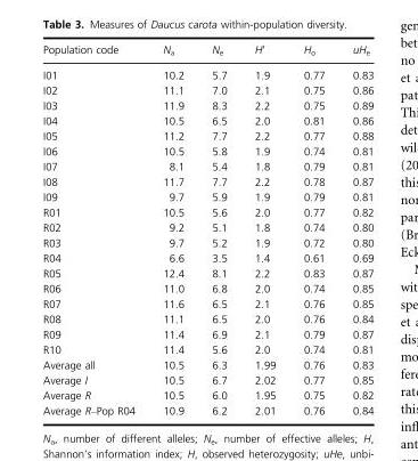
<table><thead><tr><td>Population code</td><td>N<sub>a</sub></td><td>N<sub>e</sub></td><td>H′</td><td>H<sub>o</sub></td><td>uH<sub>e</sub></td></tr></thead><tbody><tr><td>I01</td><td>10.2</td><td>5.7</td><td>1.9</td><td>0.77</td><td>0.83</td></tr><tr><td>I02</td><td>11.1</td><td>7.0</td><td>2.1</td><td>0.75</td><td>0.86</td></tr><tr><td>I03</td><td>11.9</td><td>8.3</td><td>2.2</td><td>0.75</td><td>0.89</td></tr><tr><td>I04</td><td>10.5</td><td>6.5</td><td>2.0</td><td>0.81</td><td>0.86</td></tr><tr><td>I05</td><td>11.2</td><td>7.7</td><td>2.2</td><td>0.77</td><td>0.88</td></tr><tr><td>I06</td><td>10.5</td><td>5.8</td><td>1.9</td><td>0.74</td><td>0.81</td></tr><tr><td>I07</td><td>8.1</td><td>5.4</td><td>1.8</td><td>0.79</td><td>0.81</td></tr><tr><td>I08</td><td>11.7</td><td>7.7</td><td>2.2</td><td>0.78</td><td>0.87</td></tr><tr><td>I09</td><td>9.7</td><td>5.9</td><td>1.9</td><td>0.79</td><td>0.81</td></tr><tr><td>R01</td><td>10.5</td><td>5.6</td><td>2.0</td><td>0.77</td><td>0.82</td></tr><tr><td>R02</td><td>9.2</td><td>5.1</td><td>1.8</td><td>0.74</td><td>0.80</td></tr><tr><td>R03</td><td>9.7</td><td>5.2</td><td>1.9</td><td>0.72</td><td>0.80</td></tr><tr><td>R04</td><td>6.6</td><td>3.5</td><td>1.4</td><td>0.61</td><td>0.69</td></tr><tr><td>R05</td><td>12.4</td><td>8.1</td><td>2.2</td><td>0.83</td><td>0.87</td></tr><tr><td>R06</td><td>11.0</td><td>6.8</td><td>2.0</td><td>0.74</td><td>0.85</td></tr><tr><td>R07</td><td>11.6</td><td>6.5</td><td>2.1</td><td>0.76</td><td>0.85</td></tr><tr><td>R08</td><td>11.1</td><td>6.5</td><td>2.0</td><td>0.76</td><td>0.84</td></tr><tr><td>R09</td><td>11.4</td><td>6.9</td><td>2.1</td><td>0.79</td><td>0.87</td></tr><tr><td>R10</td><td>11.4</td><td>5.6</td><td>2.0</td><td>0.74</td><td>0.81</td></tr><tr><td>Average all</td><td>10.5</td><td>6.3</td><td>1.99</td><td>0.76</td><td>0.83</td></tr><tr><td>Average I</td><td>10.5</td><td>6.7</td><td>2.02</td><td>0.77</td><td>0.85</td></tr><tr><td>Average R</td><td>10.5</td><td>6.0</td><td>1.95</td><td>0.75</td><td>0.82</td></tr><tr><td>Average R–Pop R04</td><td>10.9</td><td>6.2</td><td>2.01</td><td>0.76</td><td>0.84</td></tr></tbody></table>